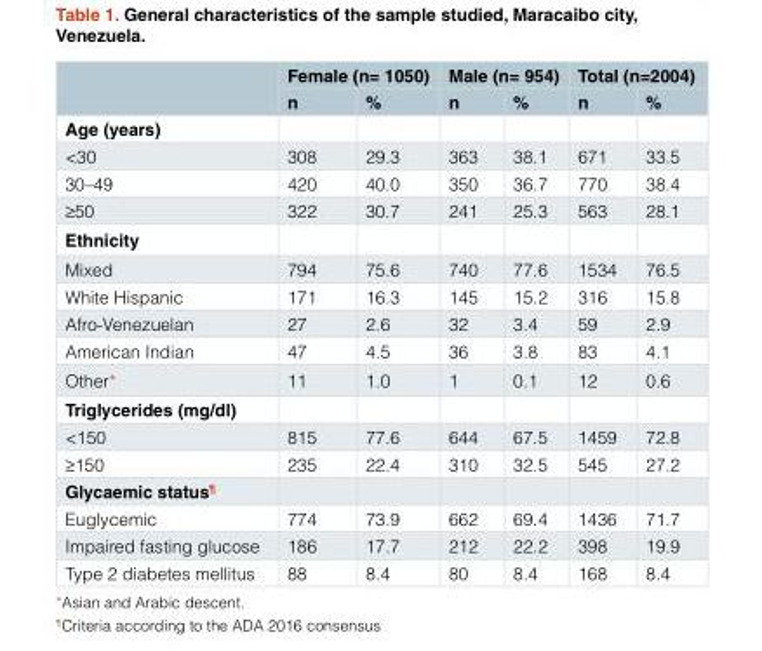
<table><thead><tr><td rowspan="2"></td><td colspan="2">Female (n= 1050)</td><td colspan="2">Male (n= 954)</td><td colspan="2">Total (n=2004)</td></tr><tr><td>n</td><td>%</td><td>n</td><td>%</td><td>n</td><td>%</td></tr></thead><tbody><tr><td colspan="7">Age (years)</td></tr><tr><td>&lt;30</td><td>308</td><td>29.3</td><td>363</td><td>38.1</td><td>671</td><td>33.5</td></tr><tr><td>30–49</td><td>420</td><td>40.0</td><td>350</td><td>36.7</td><td>770</td><td>38.4</td></tr><tr><td>≥50</td><td>322</td><td>30.7</td><td>241</td><td>25.3</td><td>563</td><td>28.1</td></tr><tr><td colspan="7">Ethnicity</td></tr><tr><td>Mixed</td><td>794</td><td>75.6</td><td>740</td><td>77.6</td><td>1534</td><td>76.5</td></tr><tr><td>White Hispanic</td><td>171</td><td>16.3</td><td>145</td><td>15.2</td><td>316</td><td>15.8</td></tr><tr><td>Afro-Venezuelan</td><td>27</td><td>2.6</td><td>32</td><td>3.4</td><td>59</td><td>2.9</td></tr><tr><td>American Indian</td><td>47</td><td>4.5</td><td>36</td><td>3.8</td><td>83</td><td>4.1</td></tr><tr><td>Other*</td><td>11</td><td>1.0</td><td>1</td><td>0.1</td><td>12</td><td>0.6</td></tr><tr><td colspan="7">Triglycerides (mg/dl)</td></tr><tr><td>&lt;150</td><td>815</td><td>77.6</td><td>644</td><td>67.5</td><td>1459</td><td>72.8</td></tr><tr><td>≥150</td><td>235</td><td>22.4</td><td>310</td><td>32.5</td><td>545</td><td>27.2</td></tr><tr><td colspan="7">Glycaemic status<sup>¶</sup></td></tr><tr><td>Euglycemic</td><td>774</td><td>73.9</td><td>662</td><td>69.4</td><td>1436</td><td>71.7</td></tr><tr><td>Impaired fasting glucose</td><td>186</td><td>17.7</td><td>212</td><td>22.2</td><td>398</td><td>19.9</td></tr><tr><td>Type 2 diabetes mellitus</td><td>88</td><td>8.4</td><td>80</td><td>8.4</td><td>168</td><td>8.4</td></tr></tbody></table>